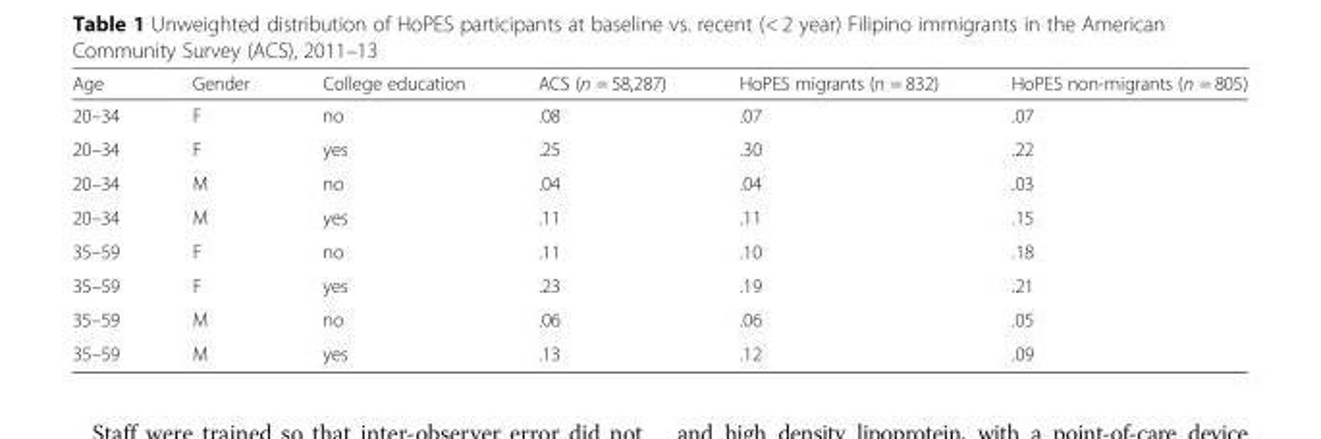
<table><thead><tr><td>Age</td><td>Gender</td><td>College education</td><td>ACS (n = 58,287)</td><td>HoPES migrants (n = 832)</td><td>HoPES non-migrants (n = 805)</td></tr></thead><tbody><tr><td>20–34</td><td>F</td><td>no</td><td>.08</td><td>.07</td><td>.07</td></tr><tr><td>20–34</td><td>F</td><td>yes</td><td>.25</td><td>.30</td><td>.22</td></tr><tr><td>20–34</td><td>M</td><td>no</td><td>.04</td><td>.04</td><td>.03</td></tr><tr><td>20–34</td><td>M</td><td>yes</td><td>.11</td><td>.11</td><td>.15</td></tr><tr><td>35–59</td><td>F</td><td>no</td><td>.11</td><td>.10</td><td>.18</td></tr><tr><td>35–59</td><td>F</td><td>yes</td><td>.23</td><td>.19</td><td>.21</td></tr><tr><td>35–59</td><td>M</td><td>no</td><td>.06</td><td>.06</td><td>.05</td></tr><tr><td>35–59</td><td>M</td><td>yes</td><td>.13</td><td>.12</td><td>.09</td></tr></tbody></table>